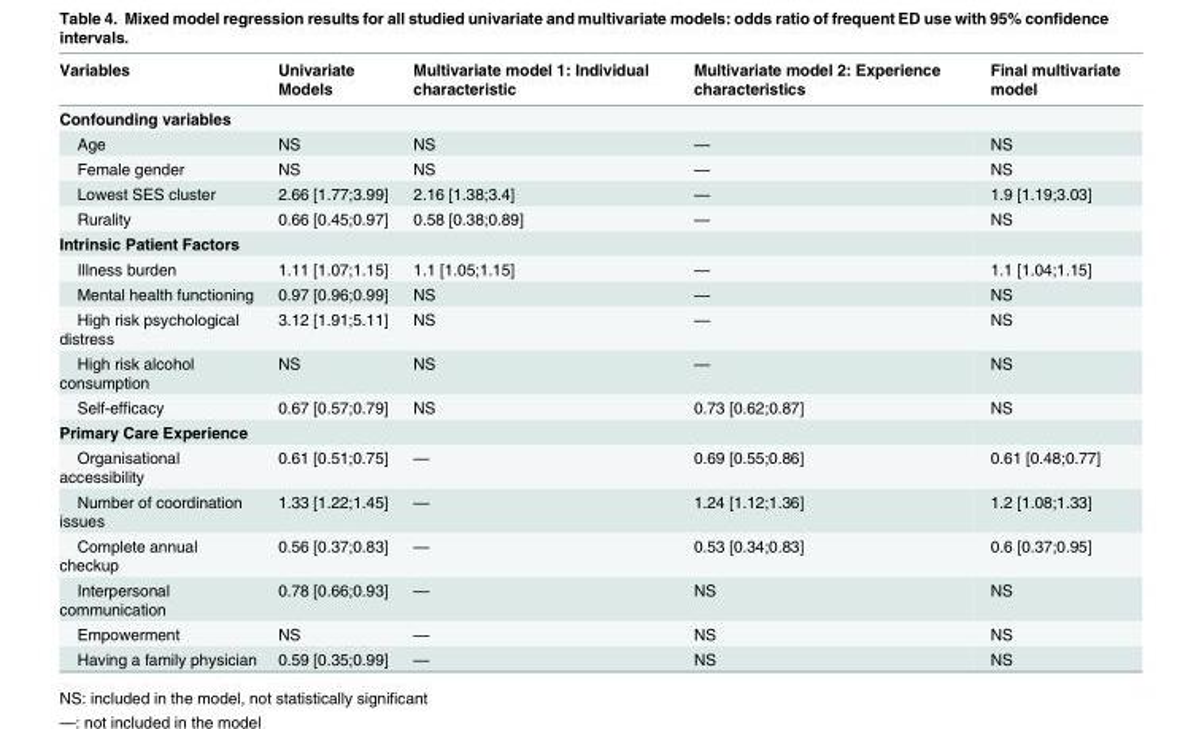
<table><thead><tr><td>Variables</td><td>Univariate Models</td><td>Multivariate model 1: Individual characteristic</td><td>Multivariate model 2: Experience characteristics</td><td>Final multivariate model</td></tr></thead><tbody><tr><td colspan="5">Confounding variables</td></tr><tr><td>Age</td><td>NS</td><td>NS</td><td>—</td><td>NS</td></tr><tr><td>Female gender</td><td>NS</td><td>NS</td><td>—</td><td>NS</td></tr><tr><td>Lowest SES cluster</td><td>2.66 [1.77;3.99]</td><td>2.16 [1.38;3.4]</td><td>—</td><td>1.9 [1.19;3.03]</td></tr><tr><td>Rurality</td><td>0.66 [0.45;0.97]</td><td>0.58 [0.38;0.89]</td><td>—</td><td>NS</td></tr><tr><td colspan="5">Intrinsic Patient Factors</td></tr><tr><td>Illness burden</td><td>1.11 [1.07;1.15]</td><td>1.1 [1.05;1.15]</td><td>—</td><td>1.1 [1.04;1.15]</td></tr><tr><td>Mental health functioning</td><td>0.97 [0.96;0.99]</td><td>NS</td><td>—</td><td>NS</td></tr><tr><td>High risk psychological distress</td><td>3.12 [1.91;5.11]</td><td>NS</td><td>—</td><td>NS</td></tr><tr><td>High risk alcohol consumption</td><td>NS</td><td>NS</td><td>—</td><td>NS</td></tr><tr><td>Self-efficacy</td><td>0.67 [0.57;0.79]</td><td>NS</td><td>0.73 [0.62;0.87]</td><td>NS</td></tr><tr><td colspan="5">Primary Care Experience</td></tr><tr><td>Organisational accessibility</td><td>0.61 [0.51;0.75]</td><td>—</td><td>0.69 [0.55;0.86]</td><td>0.61 [0.48;0.77]</td></tr><tr><td>Number of coordination issues</td><td>1.33 [1.22;1.45]</td><td>—</td><td>1.24 [1.12;1.36]</td><td>1.2 [1.08;1.33]</td></tr><tr><td>Complete annual checkup</td><td>0.56 [0.37;0.83]</td><td>—</td><td>0.53 [0.34;0.83]</td><td>0.6 [0.37;0.95]</td></tr><tr><td>Interpersonal communication</td><td>0.78 [0.66;0.93]</td><td>—</td><td>NS</td><td>NS</td></tr><tr><td>Empowerment</td><td>NS</td><td>—</td><td>NS</td><td>NS</td></tr><tr><td>Having a family physician</td><td>0.59 [0.35;0.99]</td><td>—</td><td>NS</td><td>NS</td></tr></tbody></table>